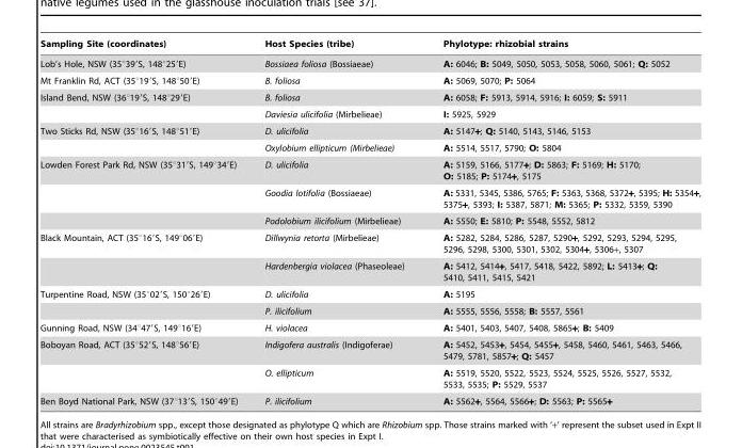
<table><thead><tr><td>Sampling Site (coordinates)</td><td>Host Species (tribe)</td><td>Phylotype: rhizobial strains</td></tr></thead><tbody><tr><td>Lob’s Hole, NSW (35°39′S, 148°25′E)</td><td>Bossiaea foliosa (Bossiaeae)</td><td>A: 6046; B: 5049, 5050, 5053, 5058, 5060, 5061; Q: 5052</td></tr><tr><td>Mt Franklin Rd, ACT (35°19′S, 148°50′E)</td><td>B. foliosa</td><td>A: 5069, 5070; P: 5064</td></tr><tr><td rowspan="2">Island Bend, NSW (36°19′S, 148°29′E)</td><td>B. foliosa</td><td>A: 6058; F: 5913, 5914, 5916; I: 6059; S: 5911</td></tr><tr><td>Daviesia ulicifolia (Mirbelieae)</td><td>I: 5925, 5929</td></tr><tr><td rowspan="2">Two Sticks Rd, NSW (35°16′S, 148°51′E)</td><td>D. ulicifolia</td><td>A: 5147+; Q: 5140, 5143, 5146, 5153</td></tr><tr><td>Oxylobium ellipticum (Mirbelieae)</td><td>A: 5514, 5517, 5790; O: 5804</td></tr><tr><td rowspan="3">Lowden Forest Park Rd, NSW (35°31′S, 149°34′E)</td><td>D. ulicifolia</td><td>A: 5159, 5166, 5177+; D: 5863; F: 5169; H: 5170; O: 5185; P: 5174+, 5175</td></tr><tr><td>Goodia lotifolia (Bossiaeae)</td><td>A: 5331, 5345, 5386, 5765; F: 5363, 5368, 5372+, 5395; H: 5354+, 5375+, 5393; I: 5387, 5871; M: 5365; P: 5332, 5359, 5390</td></tr><tr><td>Podolobium ilicifolium (Mirbelieae)</td><td>A: 5550; E: 5810; P: 5548, 5552, 5812</td></tr><tr><td rowspan="2">Black Mountain, ACT (35°16′S, 149°06′E)</td><td>Dillwynia retorta (Mirbelieae)</td><td>A: 5282, 5284, 5286, 5287, 5290+, 5292, 5293, 5294, 5295, 5296, 5298, 5300, 5301, 5302, 5304+, 5306+, 5307</td></tr><tr><td>Hardenbergia violacea (Phaseoleae)</td><td>A: 5412, 5414+, 5417, 5418, 5422, 5892; L: 5413+; Q: 5410, 5411, 5415, 5421</td></tr><tr><td rowspan="2">Turpentine Road, NSW (35°02′S, 150°26′E)</td><td>D. ulicifolia</td><td>A: 5195</td></tr><tr><td>P. ilicifolium</td><td>A: 5555, 5556, 5558; B: 5557, 5561</td></tr><tr><td>Gunning Road, NSW (34°47′S, 149°16′E)</td><td>H. violacea</td><td>A: 5401, 5403, 5407, 5408, 5865+; B: 5409</td></tr><tr><td rowspan="2">Boboyan Road, ACT (35°52′S, 148°56′E)</td><td>Indigofera australis (Indigoferae)</td><td>A: 5452, 5453+, 5454, 5455+, 5458, 5460, 5461, 5463, 5466, 5479, 5781, 5857+; Q: 5457</td></tr><tr><td>O. ellipticum</td><td>A: 5519, 5520, 5522, 5523, 5524, 5525, 5526, 5527, 5532, 5533, 5535; P: 5529, 5537</td></tr><tr><td>Ben Boyd National Park, NSW (37°13′S, 150°49′E)</td><td>P. ilicifolium</td><td>A: 5562+, 5564, 5566+; D: 5563; P: 5565+</td></tr></tbody></table>